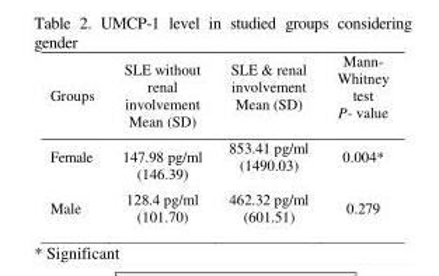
<table><thead><tr><td>Groups</td><td>SLE without renal involvement Mean (SD)</td><td>SLE &amp; renal involvement Mean (SD)</td><td>Mann- Whitney test P- value</td></tr></thead><tbody><tr><td>Female</td><td>147.98 pg/ml (146.39)</td><td>853.41 pg/ml (1490.03)</td><td>0.004*</td></tr><tr><td>Male</td><td>128.4 pg/ml (101.70)</td><td>462.32 pg/ml (601.51)</td><td>0.279</td></tr></tbody></table>